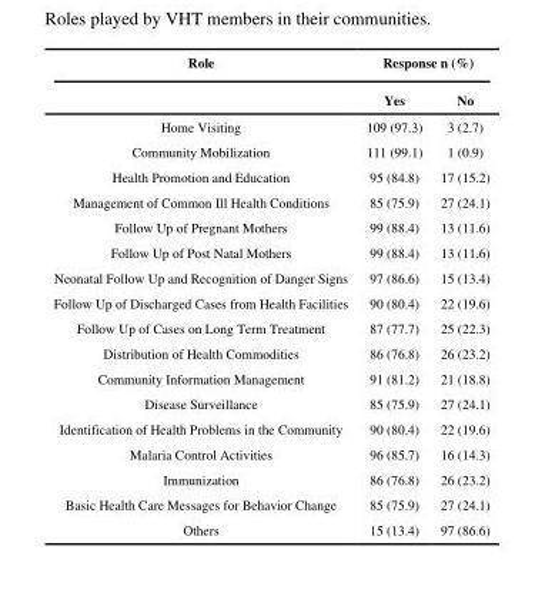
<table><thead><tr><td rowspan="2">Role</td><td colspan="2">Response n (%)</td></tr><tr><td>Yes</td><td>No</td></tr></thead><tbody><tr><td>Home Visiting</td><td>109 (97.3)</td><td>3 (2.7)</td></tr><tr><td>Community Mobilization</td><td>111 (99.1)</td><td>1 (0.9)</td></tr><tr><td>Health Promotion and Education</td><td>95 (84.8)</td><td>17 (15.2)</td></tr><tr><td>Management of Common Ill Health Conditions</td><td>85 (75.9)</td><td>27 (24.1)</td></tr><tr><td>Follow Up of Pregnant Mothers</td><td>99 (88.4)</td><td>13 (11.6)</td></tr><tr><td>Follow Up of Post Natal Mothers</td><td>99 (88.4)</td><td>13 (11.6)</td></tr><tr><td>Neonatal Follow Up and Recognition of Danger Signs</td><td>97 (86.6)</td><td>15 (13.4)</td></tr><tr><td>Follow Up of Discharged Cases from Health Facilities</td><td>90 (80.4)</td><td>22 (19.6)</td></tr><tr><td>Follow Up of Cases on Long Term Treatment</td><td>87 (77.7)</td><td>25 (22.3)</td></tr><tr><td>Distribution of Health Commodities</td><td>86 (76.8)</td><td>26 (23.2)</td></tr><tr><td>Community Information Management</td><td>91 (81.2)</td><td>21 (18.8)</td></tr><tr><td>Disease Surveillance</td><td>85 (75.9)</td><td>27 (24.1)</td></tr><tr><td>Identification of Health Problems in the Community</td><td>90 (80.4)</td><td>22 (19.6)</td></tr><tr><td>Malaria Control Activities</td><td>96 (85.7)</td><td>16 (14.3)</td></tr><tr><td>Immunization</td><td>86 (76.8)</td><td>26 (23.2)</td></tr><tr><td>Basic Health Care Messages for Behavior Change</td><td>85 (75.9)</td><td>27 (24.1)</td></tr><tr><td>Others</td><td>15 (13.4)</td><td>97 (86.6)</td></tr></tbody></table>